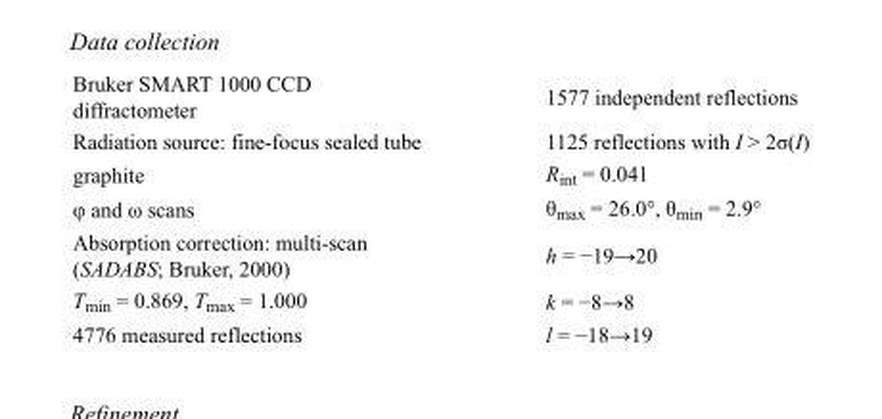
<table><tbody><tr><td>Bruker SMART 1000 CCD diffractometer</td><td>1577 independent reflections</td></tr><tr><td>Radiation source: fine-focus sealed tube</td><td>1125 reflections with I &gt; 2σ(I)</td></tr><tr><td>graphite</td><td>R<sub>int</sub> = 0.041</td></tr><tr><td>φ and ω scans</td><td>θ<sub>max</sub> = 26.0°, θ<sub>min</sub> = 2.9°</td></tr><tr><td>Absorption correction: multi-scan (SADABS; Bruker, 2000)</td><td>h = −19→20</td></tr><tr><td>T<sub>min</sub> = 0.869, T<sub>max</sub> = 1.000</td><td>k = −8→8</td></tr><tr><td>4776 measured reflections</td><td>l = −18→19</td></tr></tbody></table>